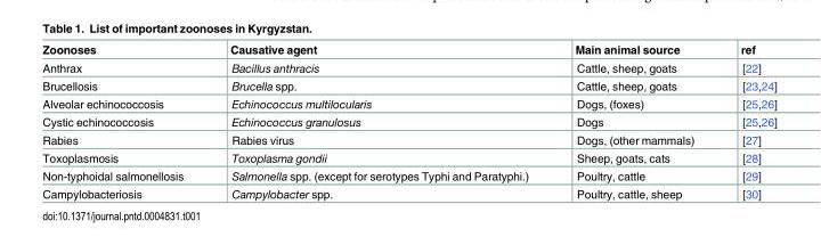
<table><thead><tr><td>Zoonoses</td><td>Causative agent</td><td>Main animal source</td><td>ref</td></tr></thead><tbody><tr><td>Anthrax</td><td>Bacillus anthracis</td><td>Cattle, sheep, goats</td><td>[22]</td></tr><tr><td>Brucellosis</td><td>Brucella spp.</td><td>Cattle, sheep, goats</td><td>[23,24]</td></tr><tr><td>Alveolar echinococcosis</td><td>Echinococcus multilocularis</td><td>Dogs, (foxes)</td><td>[25,26]</td></tr><tr><td>Cystic echinococcosis</td><td>Echinococcus granulosus</td><td>Dogs</td><td>[25,26]</td></tr><tr><td>Rabies</td><td>Rabies virus</td><td>Dogs, (other mammals)</td><td>[27]</td></tr><tr><td>Toxoplasmosis</td><td>Toxoplasma gondii</td><td>Sheep, goats, cats</td><td>[28]</td></tr><tr><td>Non-typhoidal salmonellosis</td><td>Salmonella spp. (except for serotypes Typhi and Paratyphi.)</td><td>Poultry, cattle</td><td>[29]</td></tr><tr><td>Campylobacteriosis</td><td>Campylobacter spp.</td><td>Poultry, cattle, sheep</td><td>[30]</td></tr></tbody></table>